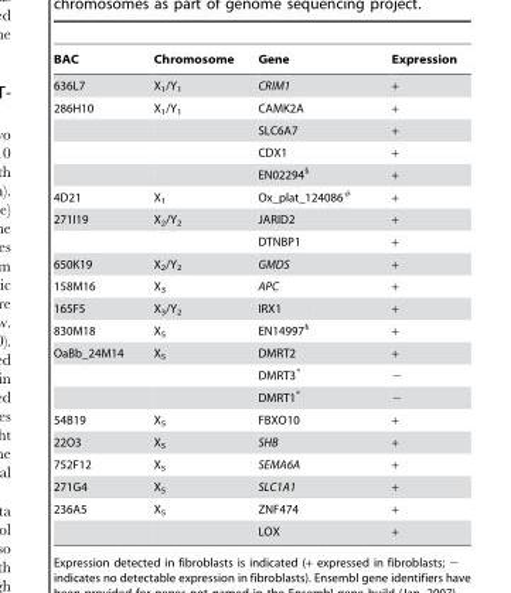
<table><thead><tr><td>BAC</td><td>Chromosome</td><td>Gene</td><td>Expression</td></tr></thead><tbody><tr><td>636L7</td><td>X<sub>1</sub>/Y<sub>1</sub></td><td>CRIM1</td><td>+</td></tr><tr><td rowspan="4">286H10</td><td>X<sub>1</sub>/Y<sub>1</sub></td><td>CAMK2A</td><td>+</td></tr><tr><td></td><td>SLC6A7</td><td>+</td></tr><tr><td></td><td>CDX1</td><td>+</td></tr><tr><td></td><td>EN02294§</td><td>+</td></tr><tr><td>4D21</td><td>X<sub>1</sub></td><td>Ox_plat_124086#</td><td>+</td></tr><tr><td rowspan="2">271I19</td><td>X<sub>2</sub>/Y<sub>2</sub></td><td>JARID2</td><td>+</td></tr><tr><td></td><td>DTNBP1</td><td>+</td></tr><tr><td>650K19</td><td>X<sub>2</sub>/Y<sub>2</sub></td><td>GMDS</td><td>+</td></tr><tr><td>158M16</td><td>X<sub>3</sub></td><td>APC</td><td>+</td></tr><tr><td>165F5</td><td>X<sub>3</sub>/Y<sub>2</sub></td><td>IRX1</td><td>+</td></tr><tr><td>830M18</td><td>X<sub>5</sub></td><td>EN14997§</td><td>+</td></tr><tr><td rowspan="3">OaBb_24M14</td><td>X<sub>5</sub></td><td>DMRT2</td><td>+</td></tr><tr><td></td><td>DMRT3*</td><td>−</td></tr><tr><td></td><td>DMRT1*</td><td>−</td></tr><tr><td>54B19</td><td>X<sub>5</sub></td><td>FBXO10</td><td>+</td></tr><tr><td>22O3</td><td>X<sub>5</sub></td><td>SHB</td><td>+</td></tr><tr><td>752F12</td><td>X<sub>5</sub></td><td>SEMA6A</td><td>+</td></tr><tr><td>271G4</td><td>X<sub>5</sub></td><td>SLC1A1</td><td>+</td></tr><tr><td rowspan="2">236A5</td><td>X<sub>5</sub></td><td>ZNF474</td><td>+</td></tr><tr><td></td><td>LOX</td><td>+</td></tr></tbody></table>